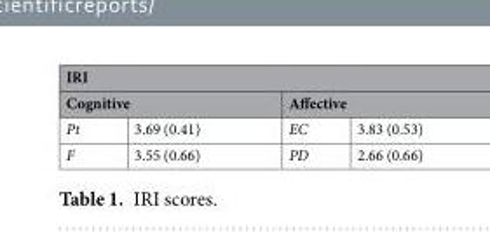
<table><thead><tr><td colspan="4">IRI</td></tr><tr><td colspan="2">Cognitive</td><td colspan="2">Affective</td></tr><tr><td>Pt</td><td>3.69 (0.41)</td><td>EC</td><td>3.83 (0.53)</td></tr></thead><tbody><tr><td>F</td><td>3.55 (0.66)</td><td>PD</td><td>2.66 (0.66)</td></tr></tbody></table>